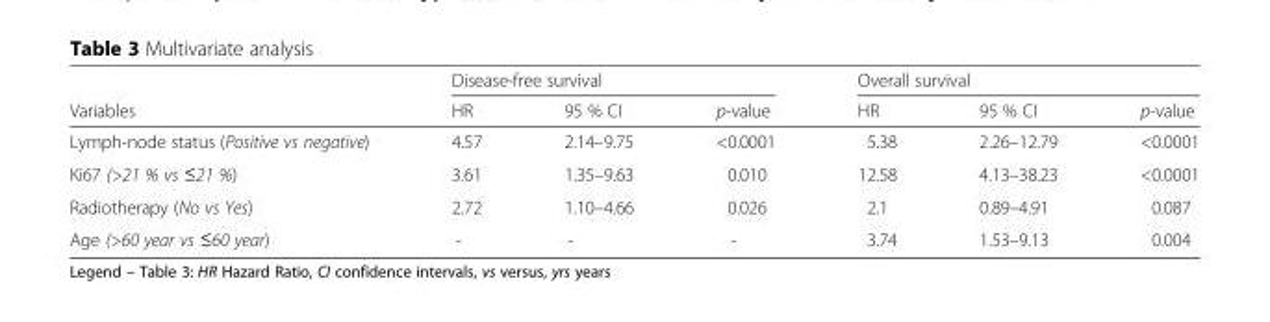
<table><thead><tr><td rowspan="2">Variables</td><td colspan="3">Disease-free survival</td><td colspan="3">Overall survival</td></tr><tr><td>HR</td><td>95 % CI</td><td>p-value</td><td>HR</td><td>95 % CI</td><td>p-value</td></tr></thead><tbody><tr><td>Lymph-node status (Positive vs negative)</td><td>4.57</td><td>2.14–9.75</td><td>&lt;0.0001</td><td>5.38</td><td>2.26–12.79</td><td>&lt;0.0001</td></tr><tr><td>Ki67 (&gt;21 % vs ≤21 %)</td><td>3.61</td><td>1.35–9.63</td><td>0.010</td><td>12.58</td><td>4.13–38.23</td><td>&lt;0.0001</td></tr><tr><td>Radiotherapy (No vs Yes)</td><td>2.72</td><td>1.10–4.66</td><td>0.026</td><td>2.1</td><td>0.89–4.91</td><td>0.087</td></tr><tr><td>Age (&gt;60 year vs ≤60 year)</td><td>-</td><td>-</td><td>-</td><td>3.74</td><td>1.53–9.13</td><td>0.004</td></tr></tbody></table>